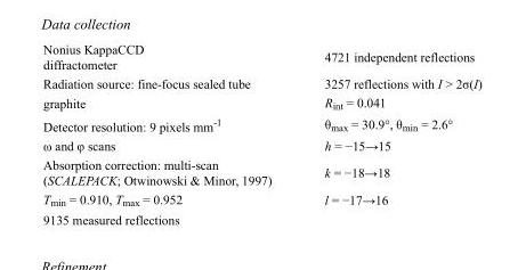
<table><tbody><tr><td>Nonius KappaCCD diffractometer</td><td>4721 independent reflections</td></tr><tr><td>Radiation source: fine-focus sealed tube</td><td>3257 reflections with I &gt; 2σ(I)</td></tr><tr><td>graphite</td><td>R<sub>int</sub> = 0.041</td></tr><tr><td>Detector resolution: 9 pixels mm<sup>-1</sup></td><td>θ<sub>max</sub> = 30.9°, θ<sub>min</sub> = 2.6°</td></tr><tr><td>ω and φ scans</td><td>h = −15→15</td></tr><tr><td>Absorption correction: multi-scan (SCALEPACK; Otwinowski &amp; Minor, 1997)</td><td>k = −18→18</td></tr><tr><td>T<sub>min</sub> = 0.910, T<sub>max</sub> = 0.952</td><td>l = −17→16</td></tr><tr><td>9135 measured reflections</td><td></td></tr></tbody></table>